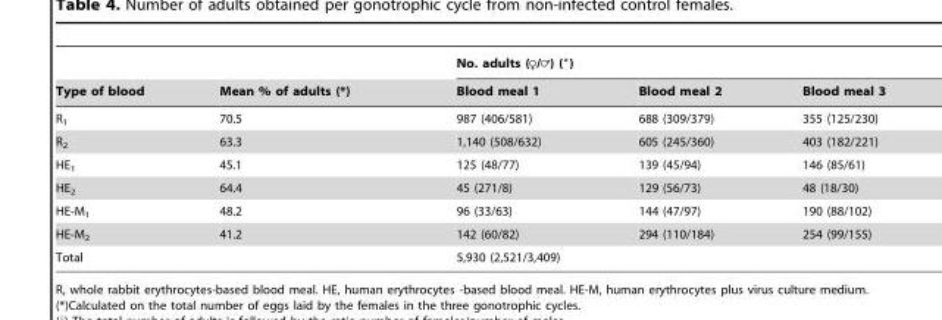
<table><thead><tr><td rowspan="2">Type of blood</td><td rowspan="2">Mean % of adults (*)</td><td colspan="3">No. adults (R/=) (6)</td></tr><tr><td>Blood meal 1</td><td>Blood meal 2</td><td>Blood meal 3</td></tr></thead><tbody><tr><td>R<sub>1</sub></td><td>70.5</td><td>987 (406/581)</td><td>688 (309/379)</td><td>355 (125/230)</td></tr><tr><td>R<sub>2</sub></td><td>63.3</td><td>1,140 (508/632)</td><td>605 (245/360)</td><td>403 (182/221)</td></tr><tr><td>HE<sub>1</sub></td><td>45.1</td><td>125 (48/77)</td><td>139 (45/94)</td><td>146 (85/61)</td></tr><tr><td>HE<sub>2</sub></td><td>64.4</td><td>45 (271/8)</td><td>129 (56/73)</td><td>48 (18/30)</td></tr><tr><td>HE-M<sub>1</sub></td><td>48.2</td><td>96 (33/63)</td><td>144 (47/97)</td><td>190 (88/102)</td></tr><tr><td>HE-M<sub>2</sub></td><td>41.2</td><td>142 (60/82)</td><td>294 (110/184)</td><td>254 (99/155)</td></tr><tr><td>Total</td><td></td><td colspan="3">5,930 (2,521/3,409)</td></tr></tbody></table>